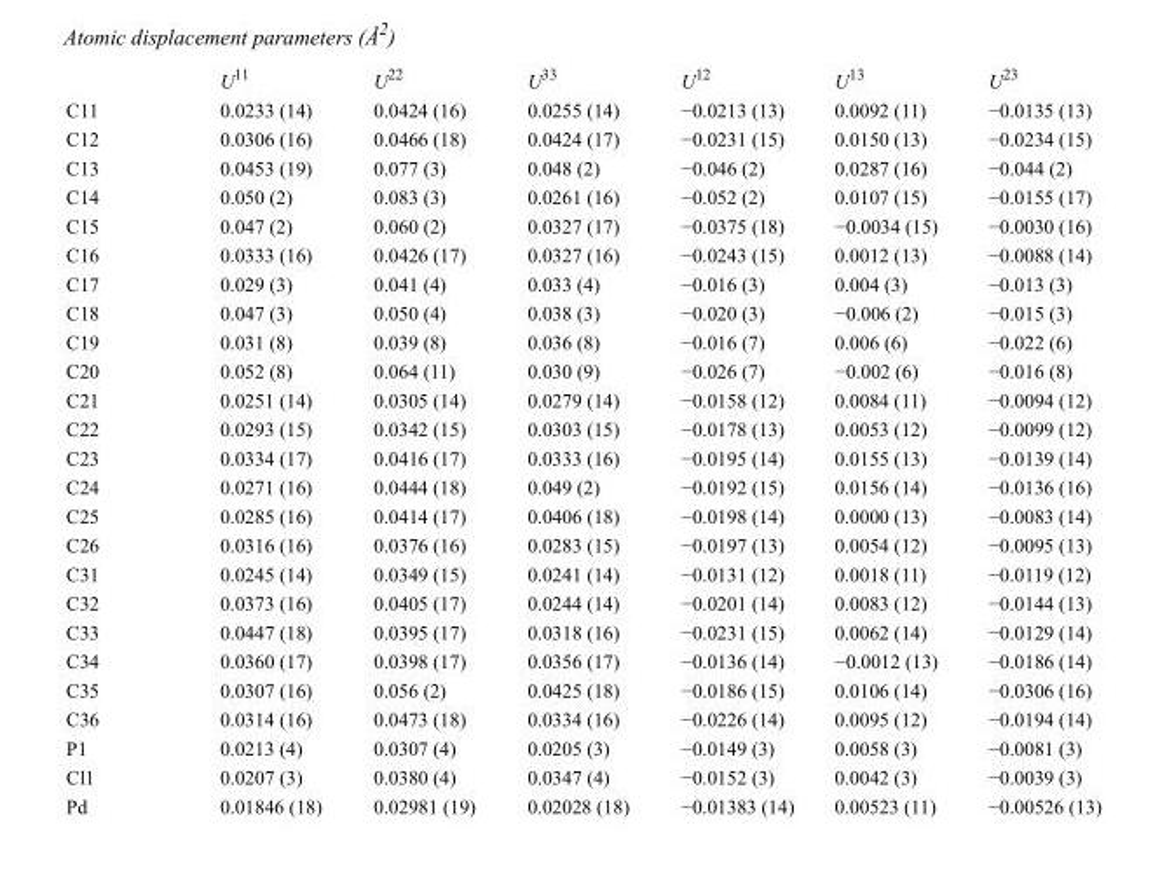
<table><thead><tr><td></td><td>U<sup>11</sup></td><td>U<sup>22</sup></td><td>U<sup>33</sup></td><td>U<sup>12</sup></td><td>U<sup>13</sup></td><td>U<sup>23</sup></td></tr></thead><tbody><tr><td>C11</td><td>0.0233 (14)</td><td>0.0424 (16)</td><td>0.0255 (14)</td><td>−0.0213 (13)</td><td>0.0092 (11)</td><td>−0.0135 (13)</td></tr><tr><td>C12</td><td>0.0306 (16)</td><td>0.0466 (18)</td><td>0.0424 (17)</td><td>−0.0231 (15)</td><td>0.0150 (13)</td><td>−0.0234 (15)</td></tr><tr><td>C13</td><td>0.0453 (19)</td><td>0.077 (3)</td><td>0.048 (2)</td><td>−0.046 (2)</td><td>0.0287 (16)</td><td>−0.044 (2)</td></tr><tr><td>C14</td><td>0.050 (2)</td><td>0.083 (3)</td><td>0.0261 (16)</td><td>−0.052 (2)</td><td>0.0107 (15)</td><td>−0.0155 (17)</td></tr><tr><td>C15</td><td>0.047 (2)</td><td>0.060 (2)</td><td>0.0327 (17)</td><td>−0.0375 (18)</td><td>−0.0034 (15)</td><td>−0.0030 (16)</td></tr><tr><td>C16</td><td>0.0333 (16)</td><td>0.0426 (17)</td><td>0.0327 (16)</td><td>−0.0243 (15)</td><td>0.0012 (13)</td><td>−0.0088 (14)</td></tr><tr><td>C17</td><td>0.029 (3)</td><td>0.041 (4)</td><td>0.033 (4)</td><td>−0.016 (3)</td><td>0.004 (3)</td><td>−0.013 (3)</td></tr><tr><td>C18</td><td>0.047 (3)</td><td>0.050 (4)</td><td>0.038 (3)</td><td>−0.020 (3)</td><td>−0.006 (2)</td><td>−0.015 (3)</td></tr><tr><td>C19</td><td>0.031 (8)</td><td>0.039 (8)</td><td>0.036 (8)</td><td>−0.016 (7)</td><td>0.006 (6)</td><td>−0.022 (6)</td></tr><tr><td>C20</td><td>0.052 (8)</td><td>0.064 (11)</td><td>0.030 (9)</td><td>−0.026 (7)</td><td>−0.002 (6)</td><td>−0.016 (8)</td></tr><tr><td>C21</td><td>0.0251 (14)</td><td>0.0305 (14)</td><td>0.0279 (14)</td><td>−0.0158 (12)</td><td>0.0084 (11)</td><td>−0.0094 (12)</td></tr><tr><td>C22</td><td>0.0293 (15)</td><td>0.0342 (15)</td><td>0.0303 (15)</td><td>−0.0178 (13)</td><td>0.0053 (12)</td><td>−0.0099 (12)</td></tr><tr><td>C23</td><td>0.0334 (17)</td><td>0.0416 (17)</td><td>0.0333 (16)</td><td>−0.0195 (14)</td><td>0.0155 (13)</td><td>−0.0139 (14)</td></tr><tr><td>C24</td><td>0.0271 (16)</td><td>0.0444 (18)</td><td>0.049 (2)</td><td>−0.0192 (15)</td><td>0.0156 (14)</td><td>−0.0136 (16)</td></tr><tr><td>C25</td><td>0.0285 (16)</td><td>0.0414 (17)</td><td>0.0406 (18)</td><td>−0.0198 (14)</td><td>0.0000 (13)</td><td>−0.0083 (14)</td></tr><tr><td>C26</td><td>0.0316 (16)</td><td>0.0376 (16)</td><td>0.0283 (15)</td><td>−0.0197 (13)</td><td>0.0054 (12)</td><td>−0.0095 (13)</td></tr><tr><td>C31</td><td>0.0245 (14)</td><td>0.0349 (15)</td><td>0.0241 (14)</td><td>−0.0131 (12)</td><td>0.0018 (11)</td><td>−0.0119 (12)</td></tr><tr><td>C32</td><td>0.0373 (16)</td><td>0.0405 (17)</td><td>0.0244 (14)</td><td>−0.0201 (14)</td><td>0.0083 (12)</td><td>−0.0144 (13)</td></tr><tr><td>C33</td><td>0.0447 (18)</td><td>0.0395 (17)</td><td>0.0318 (16)</td><td>−0.0231 (15)</td><td>0.0062 (14)</td><td>−0.0129 (14)</td></tr><tr><td>C34</td><td>0.0360 (17)</td><td>0.0398 (17)</td><td>0.0356 (17)</td><td>−0.0136 (14)</td><td>−0.0012 (13)</td><td>−0.0186 (14)</td></tr><tr><td>C35</td><td>0.0307 (16)</td><td>0.056 (2)</td><td>0.0425 (18)</td><td>−0.0186 (15)</td><td>0.0106 (14)</td><td>−0.0306 (16)</td></tr><tr><td>C36</td><td>0.0314 (16)</td><td>0.0473 (18)</td><td>0.0334 (16)</td><td>−0.0226 (14)</td><td>0.0095 (12)</td><td>−0.0194 (14)</td></tr><tr><td>P1</td><td>0.0213 (4)</td><td>0.0307 (4)</td><td>0.0205 (3)</td><td>−0.0149 (3)</td><td>0.0058 (3)</td><td>−0.0081 (3)</td></tr><tr><td>Cl1</td><td>0.0207 (3)</td><td>0.0380 (4)</td><td>0.0347 (4)</td><td>−0.0152 (3)</td><td>0.0042 (3)</td><td>−0.0039 (3)</td></tr><tr><td>Pd</td><td>0.01846 (18)</td><td>0.02981 (19)</td><td>0.02028 (18)</td><td>−0.01383 (14)</td><td>0.00523 (11)</td><td>−0.00526 (13)</td></tr></tbody></table>